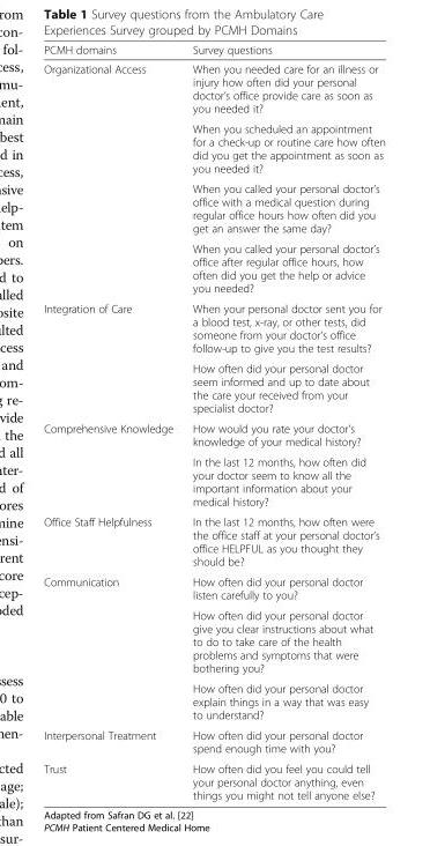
<table><thead><tr><td>PCMH domains</td><td>Survey questions</td></tr></thead><tbody><tr><td rowspan="4">Organizational Access</td><td>When you needed care for an illness or injury how often did your personal doctor’s office provide care as soon as you needed it?</td></tr><tr><td>When you scheduled an appointment for a check-up or routine care how often did you get the appointment as soon as you needed it?</td></tr><tr><td>When you called your personal doctor’s office with a medical question during regular office hours how often did you get an answer the same day?</td></tr><tr><td>When you called your personal doctor’s office after regular office hours, how often did you get the help or advice you needed?</td></tr><tr><td rowspan="2">Integration of Care</td><td>When your personal doctor sent you for a blood test, x-ray, or other tests, did someone from your doctor’s office follow-up to give you the test results?</td></tr><tr><td>How often did your personal doctor seem informed and up to date about the care your received from your specialist doctor?</td></tr><tr><td rowspan="2">Comprehensive Knowledge</td><td>How would you rate your doctor’s knowledge of your medical history?</td></tr><tr><td>In the last 12 months, how often did your doctor seem to know all the important information about your medical history?</td></tr><tr><td>Office Staff Helpfulness</td><td>In the last 12 months, how often were the office staff at your personal doctor’s office HELPFUL as you thought they should be?</td></tr><tr><td rowspan="3">Communication</td><td>How often did your personal doctor listen carefully to you?</td></tr><tr><td>How often did your personal doctor give you clear instructions about what to do to take care of the health problems and symptoms that were bothering you?</td></tr><tr><td>How often did your personal doctor explain things in a way that was easy to understand?</td></tr><tr><td>Interpersonal Treatment</td><td>How often did your personal doctor spend enough time with you?</td></tr><tr><td>Trust</td><td>How often did you feel you could tell your personal doctor anything, even things you might not tell anyone else?</td></tr></tbody></table>